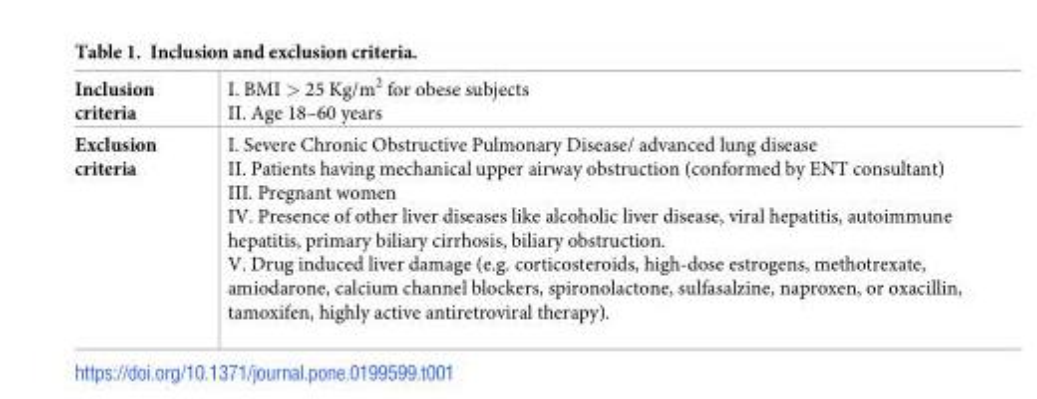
<table><tbody><tr><td>Inclusion criteria</td><td>I. BMI &gt; 25 Kg/m<sup>2</sup> for obese subjects II. Age 18–60 years</td></tr><tr><td>Exclusion criteria</td><td>I. Severe Chronic Obstructive Pulmonary Disease/ advanced lung disease II. Patients having mechanical upper airway obstruction (conformed by ENT consultant) III. Pregnant women IV. Presence of other liver diseases like alcoholic liver disease, viral hepatitis, autoimmune hepatitis, primary biliary cirrhosis, biliary obstruction. V. Drug induced liver damage (e.g. corticosteroids, high-dose estrogens, methotrexate, amiodarone, calcium channel blockers, spironolactone, sulfasalzine, naproxen, or oxacillin, tamoxifen, highly active antiretroviral therapy).</td></tr></tbody></table>